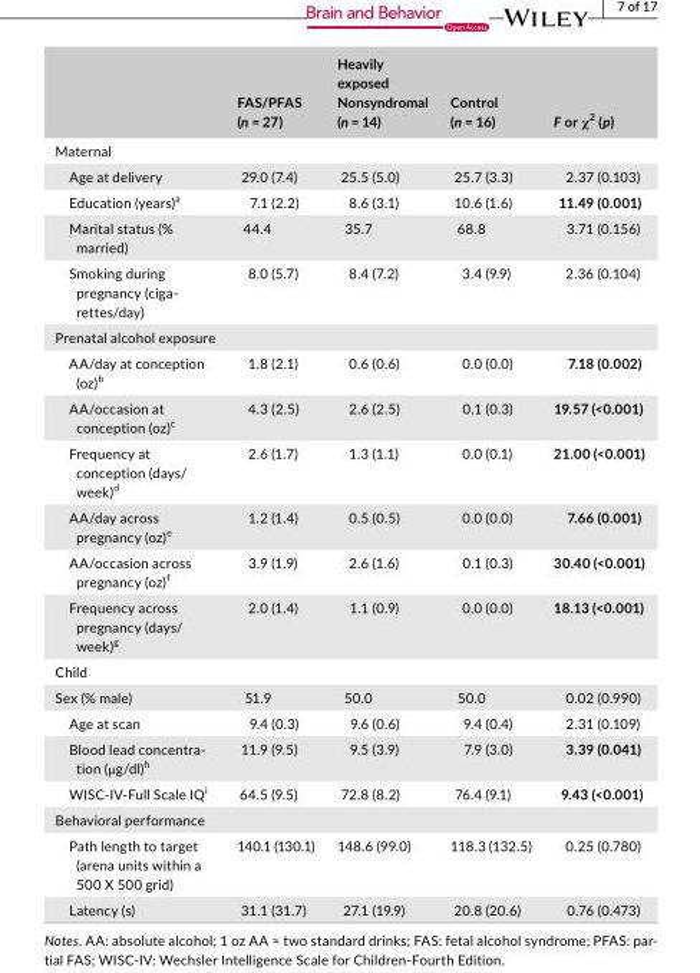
<table><thead><tr><td></td><td>FAS/PFAS (n = 27)</td><td>Heavily exposed Nonsyndromal (n = 14)</td><td>Control (n = 16)</td><td>F or χ<sup>2</sup> (p)</td></tr></thead><tbody><tr><td colspan="5">Maternal</td></tr><tr><td>Age at delivery</td><td>29.0 (7.4)</td><td>25.5 (5.0)</td><td>25.7 (3.3)</td><td>2.37 (0.103)</td></tr><tr><td>Education (years)<sup>a</sup></td><td>7.1 (2.2)</td><td>8.6 (3.1)</td><td>10.6 (1.6)</td><td>11.49 (0.001)</td></tr><tr><td>Marital status (% married)</td><td>44.4</td><td>35.7</td><td>68.8</td><td>3.71 (0.156)</td></tr><tr><td>Smoking during pregnancy (ciga- rettes/day)</td><td>8.0 (5.7)</td><td>8.4 (7.2)</td><td>3.4 (9.9)</td><td>2.36 (0.104)</td></tr><tr><td colspan="5">Prenatal alcohol exposure</td></tr><tr><td>AA/day at conception (oz)<sup>b</sup></td><td>1.8 (2.1)</td><td>0.6 (0.6)</td><td>0.0 (0.0)</td><td>7.18 (0.002)</td></tr><tr><td>AA/occasion at conception (oz)<sup>c</sup></td><td>4.3 (2.5)</td><td>2.6 (2.5)</td><td>0.1 (0.3)</td><td>19.57 (&lt;0.001)</td></tr><tr><td>Frequency at conception (days/ week)<sup>d</sup></td><td>2.6 (1.7)</td><td>1.3 (1.1)</td><td>0.0 (0.1)</td><td>21.00 (&lt;0.001)</td></tr><tr><td>AA/day across pregnancy (oz)<sup>e</sup></td><td>1.2 (1.4)</td><td>0.5 (0.5)</td><td>0.0 (0.0)</td><td>7.66 (0.001)</td></tr><tr><td>AA/occasion across pregnancy (oz)<sup>f</sup></td><td>3.9 (1.9)</td><td>2.6 (1.6)</td><td>0.1 (0.3)</td><td>30.40 (&lt;0.001)</td></tr><tr><td>Frequency across pregnancy (days/ week)<sup>g</sup></td><td>2.0 (1.4)</td><td>1.1 (0.9)</td><td>0.0 (0.0)</td><td>18.13 (&lt;0.001)</td></tr><tr><td colspan="5">Child</td></tr><tr><td>Sex (% male)</td><td>51.9</td><td>50.0</td><td>50.0</td><td>0.02 (0.990)</td></tr><tr><td>Age at scan</td><td>9.4 (0.3)</td><td>9.6 (0.6)</td><td>9.4 (0.4)</td><td>2.31 (0.109)</td></tr><tr><td>Blood lead concentra- tion (μg/dl)h</td><td>11.9 (9.5)</td><td>9.5 (3.9)</td><td>7.9 (3.0)</td><td>3.39 (0.041)</td></tr><tr><td>WISC-IV-Full Scale IQ<sup>i</sup></td><td>64.5 (9.5)</td><td>72.8 (8.2)</td><td>76.4 (9.1)</td><td>9.43 (&lt;0.001)</td></tr><tr><td colspan="5">Behavioral performance</td></tr><tr><td>Path length to target (arena units within a 500 X 500 grid)</td><td>140.1 (130.1)</td><td>148.6 (99.0)</td><td>118.3 (132.5)</td><td>0.25 (0.780)</td></tr><tr><td>Latency (s)</td><td>31.1 (31.7)</td><td>27.1 (19.9)</td><td>20.8 (20.6)</td><td>0.76 (0.473)</td></tr></tbody></table>